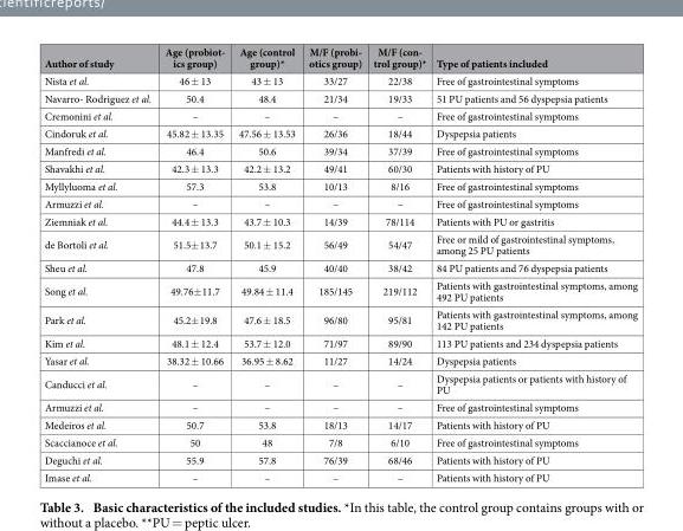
<table><thead><tr><td>Author of study</td><td>Age (probiot- ics group)</td><td>Age (control group)*</td><td>M/F (probi- otics group)</td><td>M/F (con- trol group)*</td><td>Type of patients included</td></tr></thead><tbody><tr><td>Nista et al.</td><td>46 ± 13</td><td>43 ± 13</td><td>33/27</td><td>22/38</td><td>Free of gastrointestinal symptoms</td></tr><tr><td>Navarro- Rodriguez et al.</td><td>50.4</td><td>48.4</td><td>21/34</td><td>19/33</td><td>51 PU patients and 56 dyspepsia patients</td></tr><tr><td>Cremonini et al.</td><td>–</td><td>–</td><td>–</td><td>–</td><td>Free of gastrointestinal symptoms</td></tr><tr><td>Cindoruk et al.</td><td>45.82 ± 13.35</td><td>47.56 ± 13.53</td><td>26/36</td><td>18/44</td><td>Dyspepsia patients</td></tr><tr><td>Manfredi et al.</td><td>46.4</td><td>50.6</td><td>39/34</td><td>37/39</td><td>Free of gastrointestinal symptoms</td></tr><tr><td>Shavakhi et al.</td><td>42.3 ± 13.3</td><td>42.2 ± 13.2</td><td>49/41</td><td>60/30</td><td>Patients with history of PU</td></tr><tr><td>Myllyluoma et al.</td><td>57.3</td><td>53.8</td><td>10/13</td><td>8/16</td><td>Free of gastrointestinal symptoms</td></tr><tr><td>Armuzzi et al.</td><td>–</td><td>–</td><td>–</td><td>–</td><td>Free of gastrointestinal symptoms</td></tr><tr><td>Ziemniak et al.</td><td>44.4 ± 13.3</td><td>43.7 ± 10.3</td><td>14/39</td><td>78/114</td><td>Patients with PU or gastritis</td></tr><tr><td>de Bortoli et al.</td><td>51.5± 13.7</td><td>50.1 ± 15.2</td><td>56/49</td><td>54/47</td><td>Free or mild of gastrointestinal symptoms, among 25 PU patients</td></tr><tr><td>Sheu et al.</td><td>47.8</td><td>45.9</td><td>40/40</td><td>38/42</td><td>84 PU patients and 76 dyspepsia patients</td></tr><tr><td>Song et al.</td><td>49.76± 11.7</td><td>49.84 ± 11.4</td><td>185/145</td><td>219/112</td><td>Patients with gastrointestinal symptoms, among 492 PU patients</td></tr><tr><td>Park et al.</td><td>45.2± 19.8</td><td>47.6 ± 18.5</td><td>96/80</td><td>95/81</td><td>Patients with gastrointestinal symptoms, among 142 PU patients</td></tr><tr><td>Kim et al.</td><td>48.1 ± 12.4</td><td>53.7 ± 12.0</td><td>71/97</td><td>89/90</td><td>113 PU patients and 234 dyspepsia patients</td></tr><tr><td>Yasar et al.</td><td>38.32 ± 10.66</td><td>36.95 ± 8.62</td><td>11/27</td><td>14/24</td><td>Dyspepsia patients</td></tr><tr><td>Canducci et al.</td><td>–</td><td>–</td><td>–</td><td>–</td><td>Dyspepsia patients or patients with history of PU</td></tr><tr><td>Armuzzi et al.</td><td>–</td><td>–</td><td>–</td><td>–</td><td>Free of gastrointestinal symptoms</td></tr><tr><td>Medeiros et al.</td><td>50.7</td><td>53.8</td><td>18/13</td><td>14/17</td><td>Patients with history of PU</td></tr><tr><td>Scaccianoce et al.</td><td>50</td><td>48</td><td>7/8</td><td>6/10</td><td>Free of gastrointestinal symptoms</td></tr><tr><td>Deguchi et al.</td><td>55.9</td><td>57.8</td><td>76/39</td><td>68/46</td><td>Patients with history of PU</td></tr><tr><td>Imase et al.</td><td>–</td><td>–</td><td>–</td><td>–</td><td>Patients with history of PU</td></tr></tbody></table>